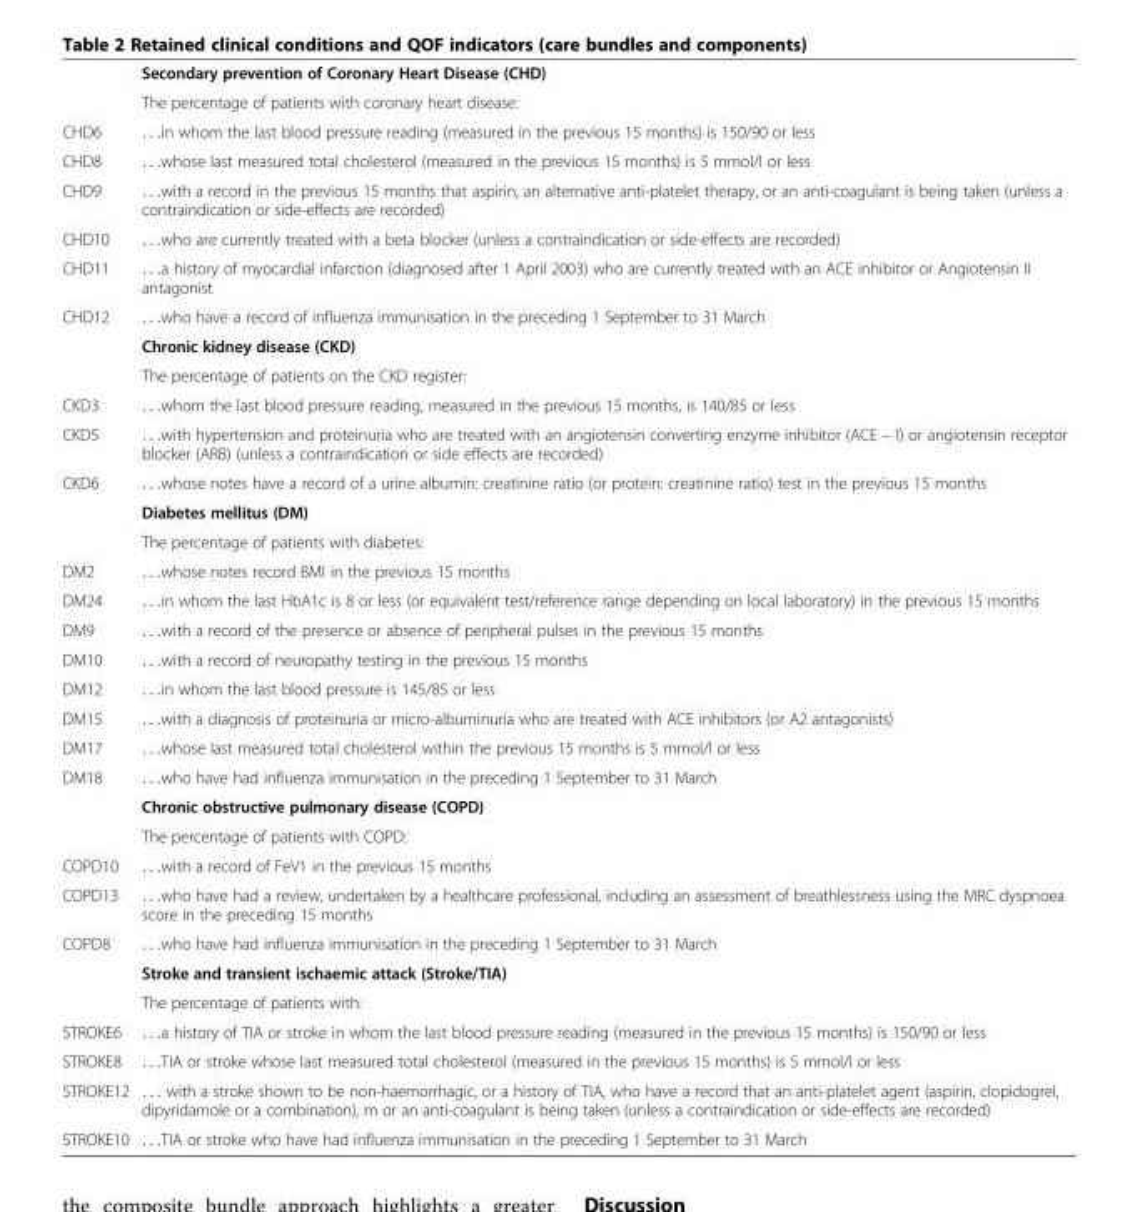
<table><thead><tr><td></td><td>Secondary prevention of Coronary Heart Disease (CHD)</td></tr></thead><tbody><tr><td></td><td>The percentage of patients with coronary heart disease:</td></tr><tr><td>CHD6</td><td>. . .in whom the last blood pressure reading (measured in the previous 15 months) is 150/90 or less</td></tr><tr><td>CHD8</td><td>. . .whose last measured total cholesterol (measured in the previous 15 months) is 5 mmol/l or less</td></tr><tr><td>CHD9</td><td>. . .with a record in the previous 15 months that aspirin, an alternative anti-platelet therapy, or an anti-coagulant is being taken (unless a contraindication or side-effects are recorded)</td></tr><tr><td>CHD10</td><td>. . .who are currently treated with a beta blocker (unless a contraindication or side-effects are recorded)</td></tr><tr><td>CHD11</td><td>. . .a history of myocardial infarction (diagnosed after 1 April 2003) who are currently treated with an ACE inhibitor or Angiotensin II antagonist</td></tr><tr><td rowspan="3">CHD12</td><td>. . .who have a record of influenza immunisation in the preceding 1 September to 31 March</td></tr><tr><td>Chronic kidney disease (CKD)</td></tr><tr><td>The percentage of patients on the CKD register:</td></tr><tr><td>CKD3</td><td>. . .whom the last blood pressure reading, measured in the previous 15 months, is 140/85 or less</td></tr><tr><td>CKD5</td><td>. . .with hypertension and proteinuria who are treated with an angiotensin converting enzyme inhibitor (ACE – I) or angiotensin receptor blocker (ARB) (unless a contraindication or side effects are recorded)</td></tr><tr><td rowspan="3">CKD6</td><td>. . .whose notes have a record of a urine albumin: creatinine ratio (or protein: creatinine ratio) test in the previous 15 months</td></tr><tr><td>Diabetes mellitus (DM)</td></tr><tr><td>The percentage of patients with diabetes:</td></tr><tr><td>DM2</td><td>. . .whose notes record BMI in the previous 15 months</td></tr><tr><td>DM24</td><td>. . .in whom the last HbA1c is 8 or less (or equivalent test/reference range depending on local laboratory) in the previous 15 months</td></tr><tr><td>DM9</td><td>. . .with a record of the presence or absence of peripheral pulses in the previous 15 months</td></tr><tr><td>DM10</td><td>. . .with a record of neuropathy testing in the previous 15 months</td></tr><tr><td>DM12</td><td>. . .in whom the last blood pressure is 145/85 or less</td></tr><tr><td>DM15</td><td>. . .with a diagnosis of proteinuria or micro-albuminuria who are treated with ACE inhibitors (or A2 antagonists)</td></tr><tr><td>DM17</td><td>. . .whose last measured total cholesterol within the previous 15 months is 5 mmol/l or less</td></tr><tr><td rowspan="3">DM18</td><td>. . .who have had influenza immunisation in the preceding 1 September to 31 March</td></tr><tr><td>Chronic obstructive pulmonary disease (COPD)</td></tr><tr><td>The percentage of patients with COPD:</td></tr><tr><td>COPD10</td><td>. . .with a record of FeV1 in the previous 15 months</td></tr><tr><td>COPD13</td><td>. . .who have had a review, undertaken by a healthcare professional, including an assessment of breathlessness using the MRC dyspnoea score in the preceding 15 months</td></tr><tr><td rowspan="3">COPD8</td><td>. . .who have had influenza immunisation in the preceding 1 September to 31 March</td></tr><tr><td>Stroke and transient ischaemic attack (Stroke/TIA)</td></tr><tr><td>The percentage of patients with:</td></tr><tr><td>STROKE6</td><td>. . .a history of TIA or stroke in whom the last blood pressure reading (measured in the previous 15 months) is 150/90 or less</td></tr><tr><td>STROKE8</td><td>. . .TIA or stroke whose last measured total cholesterol (measured in the previous 15 months) is 5 mmol/l or less</td></tr><tr><td>STROKE12</td><td>. . . with a stroke shown to be non-haemorrhagic, or a history of TIA, who have a record that an anti-platelet agent (aspirin, clopidogrel, dipyridamole or a combination), m or an anti-coagulant is being taken (unless a contraindication or side-effects are recorded)</td></tr><tr><td>STROKE10</td><td>. . .TIA or stroke who have had influenza immunisation in the preceding 1 September to 31 March</td></tr></tbody></table>